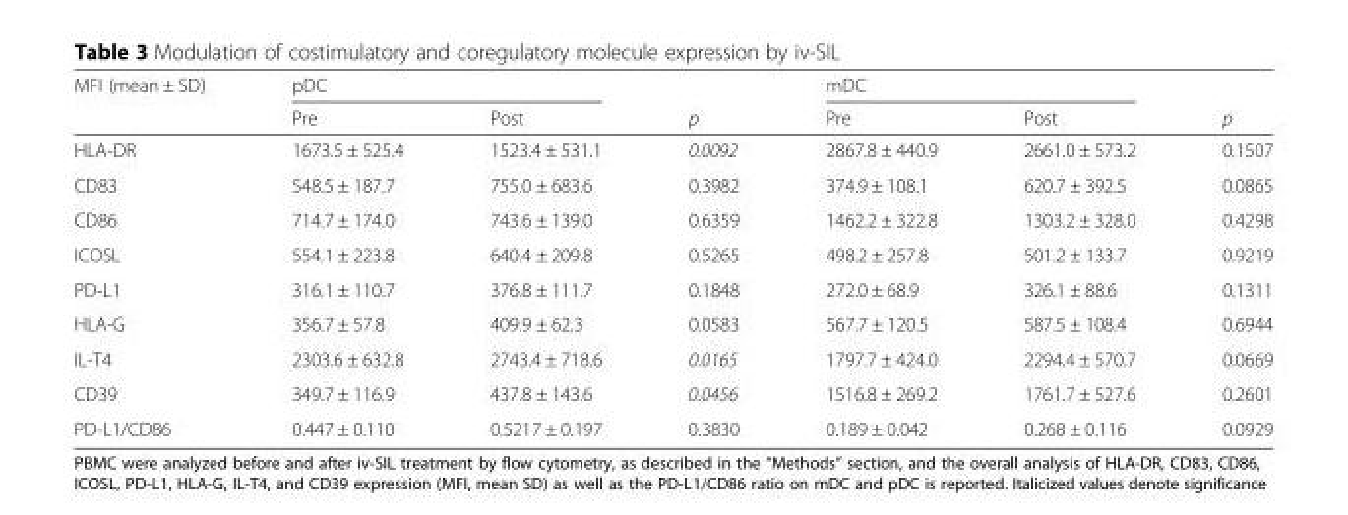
<table><thead><tr><td rowspan="2">MFI (mean ± SD)</td><td colspan="2">pDC</td><td rowspan="2">p</td><td colspan="2">mDC</td><td rowspan="2">p</td></tr><tr><td>Pre</td><td>Post</td><td>Pre</td><td>Post</td></tr></thead><tbody><tr><td>HLA-DR</td><td>1673.5 ± 525.4</td><td>1523.4 ± 531.1</td><td>0.0092</td><td>2867.8 ± 440.9</td><td>2661.0 ± 573.2</td><td>0.1507</td></tr><tr><td>CD83</td><td>548.5 ± 187.7</td><td>755.0 ± 683.6</td><td>0.3982</td><td>374.9 ± 108.1</td><td>620.7 ± 392.5</td><td>0.0865</td></tr><tr><td>CD86</td><td>714.7 ± 174.0</td><td>743.6 ± 139.0</td><td>0.6359</td><td>1462.2 ± 322.8</td><td>1303.2 ± 328.0</td><td>0.4298</td></tr><tr><td>ICOSL</td><td>554.1 ± 223.8</td><td>640.4 ± 209.8</td><td>0.5265</td><td>498.2 ± 257.8</td><td>501.2 ± 133.7</td><td>0.9219</td></tr><tr><td>PD-L1</td><td>316.1 ± 110.7</td><td>376.8 ± 111.7</td><td>0.1848</td><td>272.0 ± 68.9</td><td>326.1 ± 88.6</td><td>0.1311</td></tr><tr><td>HLA-G</td><td>356.7 ± 57.8</td><td>409.9 ± 62.3</td><td>0.0583</td><td>567.7 ± 120.5</td><td>587.5 ± 108.4</td><td>0.6944</td></tr><tr><td>IL-T4</td><td>2303.6 ± 632.8</td><td>2743.4 ± 718.6</td><td>0.0165</td><td>1797.7 ± 424.0</td><td>2294.4 ± 570.7</td><td>0.0669</td></tr><tr><td>CD39</td><td>349.7 ± 116.9</td><td>437.8 ± 143.6</td><td>0.0456</td><td>1516.8 ± 269.2</td><td>1761.7 ± 527.6</td><td>0.2601</td></tr><tr><td>PD-L1/CD86</td><td>0.447 ± 0.110</td><td>0.5217 ± 0.197</td><td>0.3830</td><td>0.189 ± 0.042</td><td>0.268 ± 0.116</td><td>0.0929</td></tr></tbody></table>